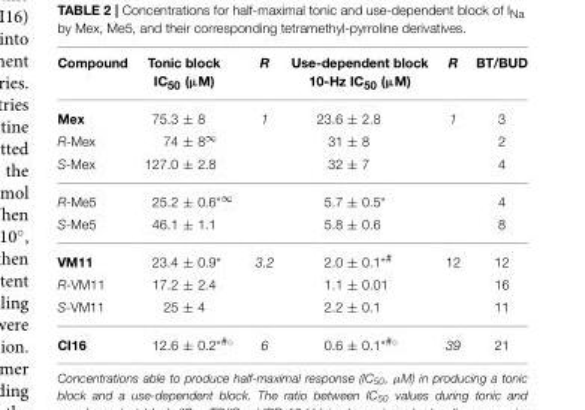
<table><thead><tr><td>Compound</td><td>Tonic block IC<sub>50</sub> (µM)</td><td>R</td><td>Use-dependent block 10-Hz IC<sub>50</sub> (µM)</td><td>R</td><td>BT/BUD</td></tr></thead><tbody><tr><td>Mex</td><td>75.3 ± 8</td><td>1</td><td>23.6 ± 2.8</td><td>1</td><td>3</td></tr><tr><td>R-Mex</td><td>74 ± 8<sup>∞</sup></td><td></td><td>31 ± 8</td><td></td><td>2</td></tr><tr><td>S-Mex</td><td>127.0 ± 2.8</td><td></td><td>32 ± 7</td><td></td><td>4</td></tr><tr><td>R-Me5</td><td>25.2 ± 0.6<sup>*∞</sup></td><td></td><td>5.7 ± 0.5*</td><td></td><td>4</td></tr><tr><td>S-Me5</td><td>46.1 ± 1.1</td><td></td><td>5.8 ± 0.6</td><td></td><td>8</td></tr><tr><td>VM11</td><td>23.4 ± 0.9*</td><td>3.2</td><td>2.0 ± 0.1<sup>*#</sup></td><td>12</td><td>12</td></tr><tr><td>R-VM11</td><td>17.2 ± 2.4</td><td></td><td>1.1 ± 0.01</td><td></td><td>16</td></tr><tr><td>S-VM11</td><td>25 ± 4</td><td></td><td>2.2 ± 0.1</td><td></td><td>11</td></tr><tr><td>CI16</td><td>12.6 ± 0.2<sup>*#◦</sup></td><td>6</td><td>0.6 ± 0.1<sup>*#◦</sup></td><td>39</td><td>21</td></tr></tbody></table>